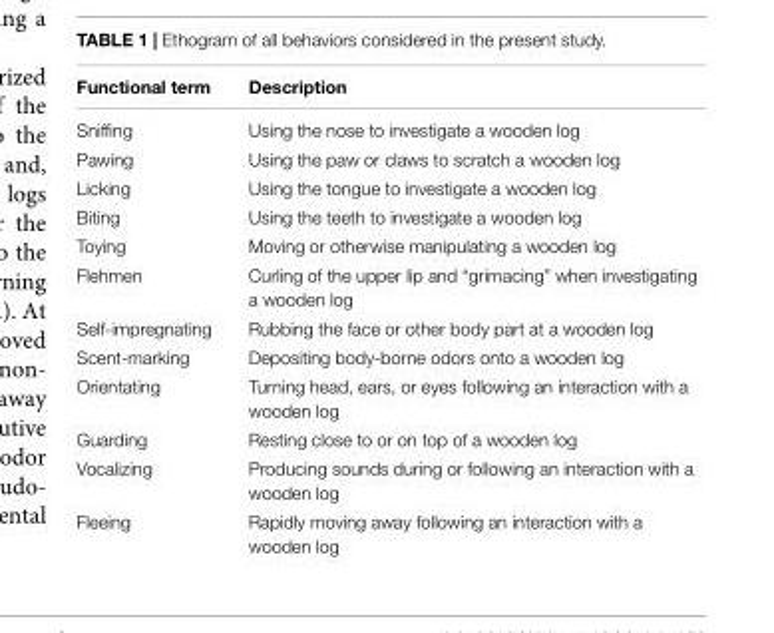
<table><thead><tr><td>Functional term</td><td>Description</td></tr></thead><tbody><tr><td>Sniffing</td><td>Using the nose to investigate a wooden log</td></tr><tr><td>Pawing</td><td>Using the paw or claws to scratch a wooden log</td></tr><tr><td>Licking</td><td>Using the tongue to investigate a wooden log</td></tr><tr><td>Biting</td><td>Using the teeth to investigate a wooden log</td></tr><tr><td>Toying</td><td>Moving or otherwise manipulating a wooden log</td></tr><tr><td>Flehmen</td><td>Curling of the upper lip and “grimacing” when investigating a wooden log</td></tr><tr><td>Self-impregnating</td><td>Rubbing the face or other body part at a wooden log</td></tr><tr><td>Scent-marking</td><td>Depositing body-borne odors onto a wooden log</td></tr><tr><td>Orientating</td><td>Turning head, ears, or eyes following an interaction with a wooden log</td></tr><tr><td>Guarding</td><td>Resting close to or on top of a wooden log</td></tr><tr><td>Vocalizing</td><td>Producing sounds during or following an interaction with a wooden log</td></tr><tr><td>Fleeing</td><td>Rapidly moving away following an interaction with a wooden log</td></tr></tbody></table>